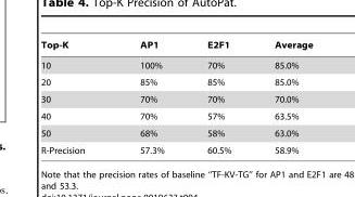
<table><thead><tr><td>Top-K</td><td>AP1</td><td>E2F1</td><td>Average</td></tr></thead><tbody><tr><td>10</td><td>100%</td><td>70%</td><td>85.0%</td></tr><tr><td>20</td><td>85%</td><td>85%</td><td>85.0%</td></tr><tr><td>30</td><td>70%</td><td>70%</td><td>70.0%</td></tr><tr><td>40</td><td>70%</td><td>57%</td><td>63.5%</td></tr><tr><td>50</td><td>68%</td><td>58%</td><td>63.0%</td></tr><tr><td>R-Precision</td><td>57.3%</td><td>60.5%</td><td>58.9%</td></tr></tbody></table>